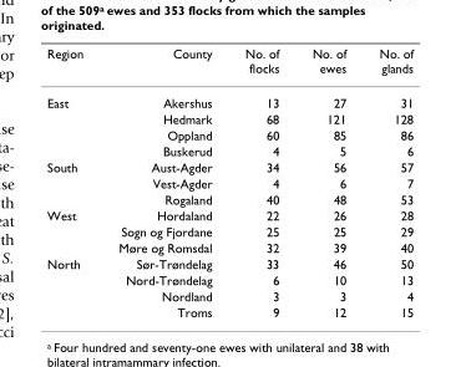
<table><thead><tr><td>Region</td><td>County</td><td>No. of flocks</td><td>No. of ewes</td><td>No. of glands</td></tr></thead><tbody><tr><td rowspan="4">East</td><td>Akershus</td><td>13</td><td>27</td><td>31</td></tr><tr><td>Hedmark</td><td>68</td><td>121</td><td>128</td></tr><tr><td>Oppland</td><td>60</td><td>85</td><td>86</td></tr><tr><td>Buskerud</td><td>4</td><td>5</td><td>6</td></tr><tr><td rowspan="3">South</td><td>Aust-Agder</td><td>34</td><td>56</td><td>57</td></tr><tr><td>Vest-Agder</td><td>4</td><td>6</td><td>7</td></tr><tr><td>Rogaland</td><td>40</td><td>48</td><td>53</td></tr><tr><td rowspan="3">West</td><td>Hordaland</td><td>22</td><td>26</td><td>28</td></tr><tr><td>Sogn og Fjordane</td><td>25</td><td>25</td><td>29</td></tr><tr><td>Møre og Romsdal</td><td>32</td><td>39</td><td>40</td></tr><tr><td rowspan="4">North</td><td>Sør-Trøndelag</td><td>33</td><td>46</td><td>50</td></tr><tr><td>Nord-Trøndelag</td><td>6</td><td>10</td><td>13</td></tr><tr><td>Nordland</td><td>3</td><td>3</td><td>4</td></tr><tr><td>Troms</td><td>9</td><td>12</td><td>15</td></tr></tbody></table>